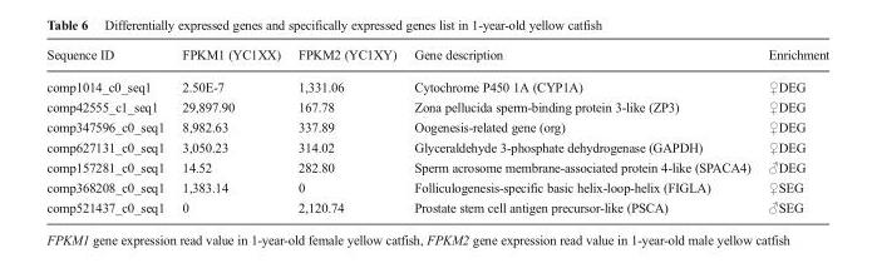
<table><thead><tr><td>Sequence ID</td><td>FPKM1 (YC1XX)</td><td>FPKM2 (YC1XY)</td><td>Gene description</td><td>Enrichment</td></tr></thead><tbody><tr><td>comp1014_c0_seq1</td><td>2.50E-7</td><td>1,331.06</td><td>Cytochrome P450 1A (CYP1A)</td><td>♀DEG</td></tr><tr><td>comp42555_c1_seq1</td><td>29,897.90</td><td>167.78</td><td>Zona pellucida sperm-binding protein 3-like (ZP3)</td><td>♀DEG</td></tr><tr><td>comp347596_c0_seq1</td><td>8,982.63</td><td>337.89</td><td>Oogenesis-related gene (org)</td><td>♀DEG</td></tr><tr><td>comp627131_c0_seq1</td><td>3,050.23</td><td>314.02</td><td>Glyceraldehyde 3-phosphate dehydrogenase (GAPDH)</td><td>♀DEG</td></tr><tr><td>comp157281_c0_seq1</td><td>14.52</td><td>282.80</td><td>Sperm acrosome membrane-associated protein 4-like (SPACA4)</td><td>♂DEG</td></tr><tr><td>comp368208_c0_seq1</td><td>1,383.14</td><td>0</td><td>Folliculogenesis-specific basic helix-loop-helix (FIGLA)</td><td>♀SEG</td></tr><tr><td>comp521437_c0_seq1</td><td>0</td><td>2,120.74</td><td>Prostate stem cell antigen precursor-like (PSCA)</td><td>♂SEG</td></tr></tbody></table>